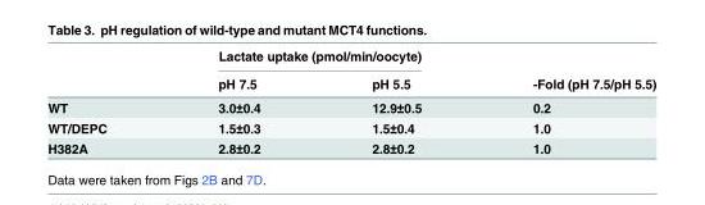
<table><thead><tr><td rowspan="2"></td><td colspan="2">Lactate uptake (pmol/min/oocyte)</td><td rowspan="2">-Fold (pH 7.5/pH 5.5)</td></tr><tr><td>pH 7.5</td><td>pH 5.5</td></tr></thead><tbody><tr><td>WT</td><td>3.0±0.4</td><td>12.9±0.5</td><td>0.2</td></tr><tr><td>WT/DEPC</td><td>1.5±0.3</td><td>1.5±0.4</td><td>1.0</td></tr><tr><td>H382A</td><td>2.8±0.2</td><td>2.8±0.2</td><td>1.0</td></tr></tbody></table>